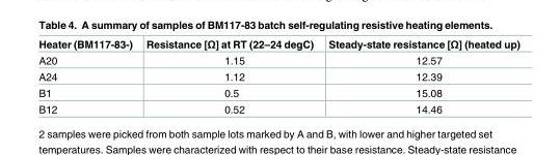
<table><thead><tr><td>Heater (BM117-83-)</td><td>Resistance [Ω] at RT (22–24 degC)</td><td>Steady-state resistance [Ω] (heated up)</td></tr></thead><tbody><tr><td>A20</td><td>1.15</td><td>12.57</td></tr><tr><td>A24</td><td>1.12</td><td>12.39</td></tr><tr><td>B1</td><td>0.5</td><td>15.08</td></tr><tr><td>B12</td><td>0.52</td><td>14.46</td></tr></tbody></table>